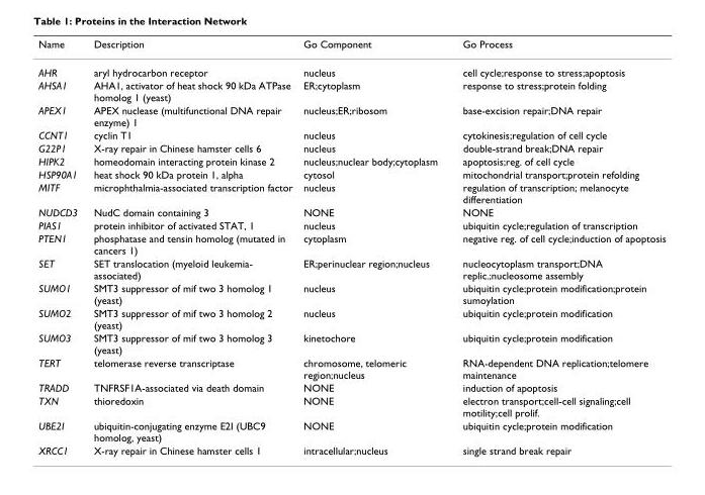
<table><thead><tr><td>Name</td><td>Description</td><td>Go Component</td><td>Go Process</td></tr></thead><tbody><tr><td>AHR</td><td>aryl hydrocarbon receptor</td><td>nucleus</td><td>cell cycle;response to stress;apoptosis</td></tr><tr><td>AHSA1</td><td>AHA1, activator of heat shock 90 kDa ATPase homolog 1 (yeast)</td><td>ER;cytoplasm</td><td>response to stress;protein folding</td></tr><tr><td>APEX1</td><td>APEX nuclease (multifunctional DNA repair enzyme) 1</td><td>nucleus;ER;ribosom</td><td>base-excision repair;DNA repair</td></tr><tr><td>CCNT1</td><td>cyclin T1</td><td>nucleus</td><td>cytokinesis;regulation of cell cycle</td></tr><tr><td>G22P1</td><td>X-ray repair in Chinese hamster cells 6</td><td>nucleus</td><td>double-strand break;DNA repair</td></tr><tr><td>HIPK2</td><td>homeodomain interacting protein kinase 2</td><td>nucleus;nuclear body;cytoplasm</td><td>apoptosis;reg. of cell cycle</td></tr><tr><td>HSP90A1</td><td>heat shock 90 kDa protein 1, alpha</td><td>cytosol</td><td>mitochondrial transport;protein refolding</td></tr><tr><td>MITF</td><td>microphthalmia-associated transcription factor</td><td>nucleus</td><td>regulation of transcription; melanocyte differentiation</td></tr><tr><td>NUDCD3</td><td>NudC domain containing 3</td><td>NONE</td><td>NONE</td></tr><tr><td>PIAS1</td><td>protein inhibitor of activated STAT, 1</td><td>nucleus</td><td>ubiquitin cycle;regulation of transcription</td></tr><tr><td>PTEN1</td><td>phosphatase and tensin homolog (mutated in cancers 1)</td><td>cytoplasm</td><td>negative reg. of cell cycle;induction of apoptosis</td></tr><tr><td>SET</td><td>SET translocation (myeloid leukemia- associated)</td><td>ER;perinuclear region;nucleus</td><td>nucleocytoplasm transport;DNA replic.;nucleosome assembly</td></tr><tr><td>SUMO1</td><td>SMT3 suppressor of mif two 3 homolog 1 (yeast)</td><td>nucleus</td><td>ubiquitin cycle;protein modification;protein sumoylation</td></tr><tr><td>SUMO2</td><td>SMT3 suppressor of mif two 3 homolog 2 (yeast)</td><td>nucleus</td><td>ubiquitin cycle;protein modification</td></tr><tr><td>SUMO3</td><td>SMT3 suppressor of mif two 3 homolog 3 (yeast)</td><td>kinetochore</td><td>ubiquitin cycle;protein modification</td></tr><tr><td>TERT</td><td>telomerase reverse transcriptase</td><td>chromosome, telomeric region;nucleus</td><td>RNA-dependent DNA replication;telomere maintenance</td></tr><tr><td>TRADD</td><td>TNFRSF1A-associated via death domain</td><td>NONE</td><td>induction of apoptosis</td></tr><tr><td>TXN</td><td>thioredoxin</td><td>NONE</td><td>electron transport;cell-cell signaling;cell motility;cell prolif.</td></tr><tr><td>UBE2I</td><td>ubiquitin-conjugating enzyme E2I (UBC9 homolog, yeast)</td><td>NONE</td><td>ubiquitin cycle;protein modification</td></tr><tr><td>XRCC1</td><td>X-ray repair in Chinese hamster cells 1</td><td>intracellular;nucleus</td><td>single strand break repair</td></tr></tbody></table>